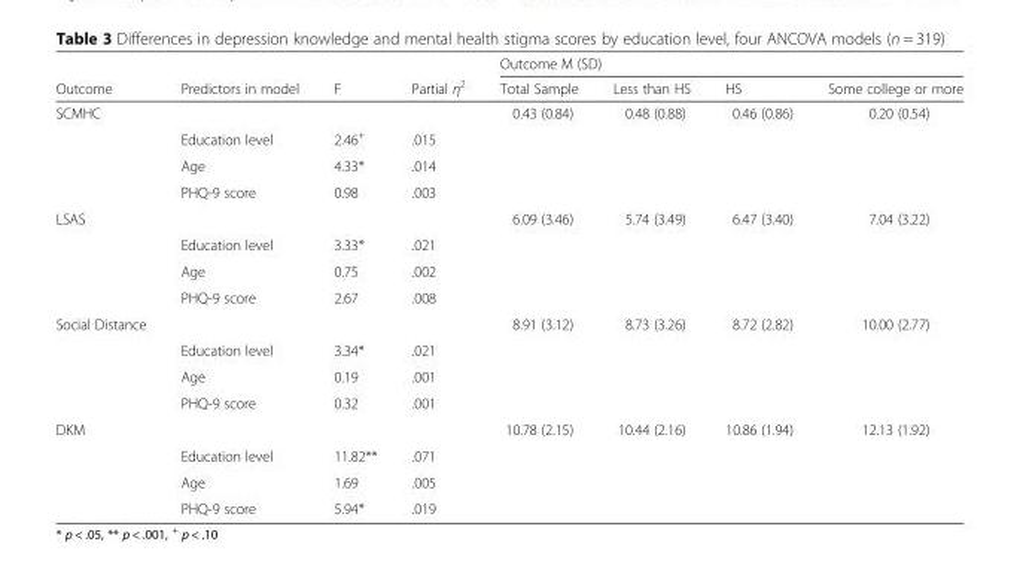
<table><thead><tr><td rowspan="2">Outcome</td><td rowspan="2">Predictors in model</td><td rowspan="2">F</td><td rowspan="2">Partial η<sup>2</sup></td><td colspan="4">Outcome M (SD)</td></tr><tr><td>Total Sample</td><td>Less than HS</td><td>HS</td><td>Some college or more</td></tr></thead><tbody><tr><td rowspan="4">SCMHC</td><td></td><td></td><td></td><td>0.43 (0.84)</td><td>0.48 (0.88)</td><td>0.46 (0.86)</td><td>0.20 (0.54)</td></tr><tr><td>Education level</td><td>2.46<sup>+</sup></td><td>.015</td><td></td><td></td><td></td><td></td></tr><tr><td>Age</td><td>4.33*</td><td>.014</td><td></td><td></td><td></td><td></td></tr><tr><td>PHQ-9 score</td><td>0.98</td><td>.003</td><td></td><td></td><td></td><td></td></tr><tr><td rowspan="4">LSAS</td><td></td><td></td><td></td><td>6.09 (3.46)</td><td>5.74 (3.49)</td><td>6.47 (3.40)</td><td>7.04 (3.22)</td></tr><tr><td>Education level</td><td>3.33*</td><td>.021</td><td></td><td></td><td></td><td></td></tr><tr><td>Age</td><td>0.75</td><td>.002</td><td></td><td></td><td></td><td></td></tr><tr><td>PHQ-9 score</td><td>2.67</td><td>.008</td><td></td><td></td><td></td><td></td></tr><tr><td rowspan="4">Social Distance</td><td></td><td></td><td></td><td>8.91 (3.12)</td><td>8.73 (3.26)</td><td>8.72 (2.82)</td><td>10.00 (2.77)</td></tr><tr><td>Education level</td><td>3.34*</td><td>.021</td><td></td><td></td><td></td><td></td></tr><tr><td>Age</td><td>0.19</td><td>.001</td><td></td><td></td><td></td><td></td></tr><tr><td>PHQ-9 score</td><td>0.32</td><td>.001</td><td></td><td></td><td></td><td></td></tr><tr><td rowspan="4">DKM</td><td></td><td></td><td></td><td>10.78 (2.15)</td><td>10.44 (2.16)</td><td>10.86 (1.94)</td><td>12.13 (1.92)</td></tr><tr><td>Education level</td><td>11.82**</td><td>.071</td><td></td><td></td><td></td><td></td></tr><tr><td>Age</td><td>1.69</td><td>.005</td><td></td><td></td><td></td><td></td></tr><tr><td>PHQ-9 score</td><td>5.94*</td><td>.019</td><td></td><td></td><td></td><td></td></tr></tbody></table>